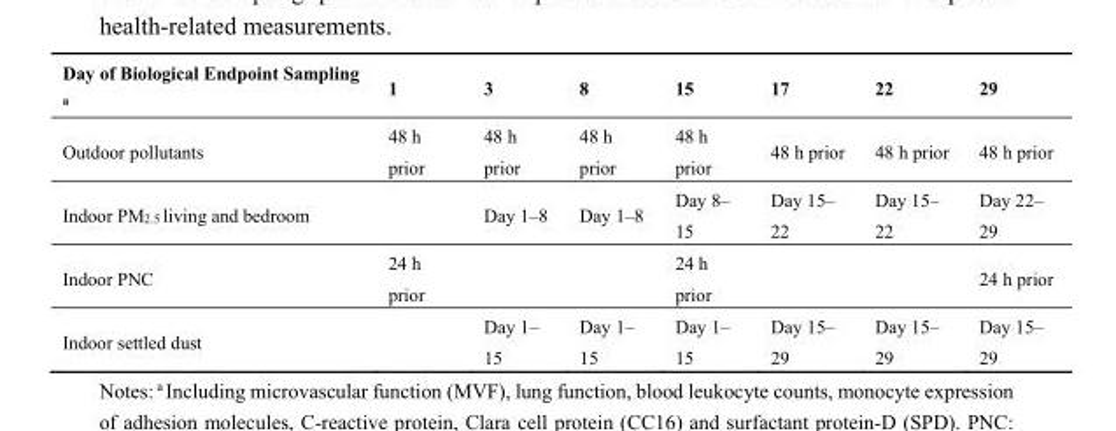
<table><thead><tr><td>Day of Biological Endpoint Sampling <sup>a</sup></td><td>1</td><td>3</td><td>8</td><td>15</td><td>17</td><td>22</td><td>29</td></tr></thead><tbody><tr><td>Outdoor pollutants</td><td>48 h prior</td><td>48 h prior</td><td>48 h prior</td><td>48 h prior</td><td>48 h prior</td><td>48 h prior</td><td>48 h prior</td></tr><tr><td>Indoor PM<sub>2.5</sub> living and bedroom</td><td></td><td>Day 1–8</td><td>Day 1–8</td><td>Day 8– 15</td><td>Day 15– 22</td><td>Day 15– 22</td><td>Day 22– 29</td></tr><tr><td>Indoor PNC</td><td>24 h prior</td><td></td><td></td><td>24 h prior</td><td></td><td></td><td>24 h prior</td></tr><tr><td>Indoor settled dust</td><td></td><td>Day 1– 15</td><td>Day 1– 15</td><td>Day 1– 15</td><td>Day 15– 29</td><td>Day 15– 29</td><td>Day 15– 29</td></tr></tbody></table>